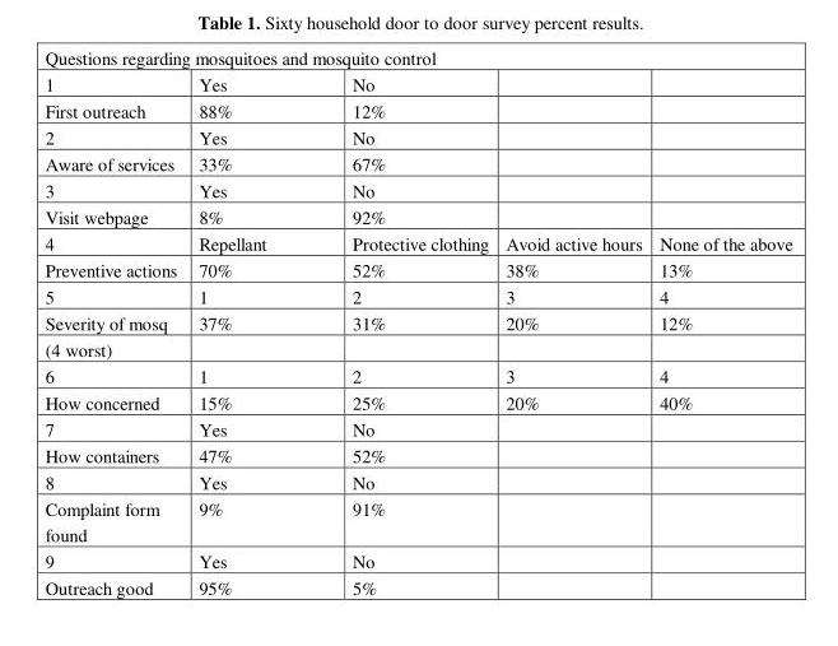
<table><thead><tr><td colspan="5">Questions regarding mosquitoes and mosquito control</td></tr><tr><td>1</td><td>Yes</td><td>No</td><td></td><td></td></tr></thead><tbody><tr><td>First outreach</td><td>88%</td><td>12%</td><td></td><td></td></tr><tr><td>2</td><td>Yes</td><td>No</td><td></td><td></td></tr><tr><td>Aware of services</td><td>33%</td><td>67%</td><td></td><td></td></tr><tr><td>3</td><td>Yes</td><td>No</td><td></td><td></td></tr><tr><td>Visit webpage</td><td>8%</td><td>92%</td><td></td><td></td></tr><tr><td>4</td><td>Repellant</td><td>Protective clothing</td><td>Avoid active hours</td><td>None of the above</td></tr><tr><td>Preventive actions</td><td>70%</td><td>52%</td><td>38%</td><td>13%</td></tr><tr><td>5</td><td>1</td><td>2</td><td>3</td><td>4</td></tr><tr><td>Severity of mosq</td><td>37%</td><td>31%</td><td>20%</td><td>12%</td></tr><tr><td colspan="5">(4 worst)</td></tr><tr><td>6</td><td>1</td><td>2</td><td>3</td><td>4</td></tr><tr><td>How concerned</td><td>15%</td><td>25%</td><td>20%</td><td>40%</td></tr><tr><td>7</td><td>Yes</td><td>No</td><td></td><td></td></tr><tr><td>How containers</td><td>47%</td><td>52%</td><td></td><td></td></tr><tr><td>8</td><td>Yes</td><td>No</td><td></td><td></td></tr><tr><td>Complaint form found</td><td>9%</td><td>91%</td><td></td><td></td></tr><tr><td>9</td><td>Yes</td><td>No</td><td></td><td></td></tr><tr><td>Outreach good</td><td>95%</td><td>5%</td><td></td><td></td></tr></tbody></table>